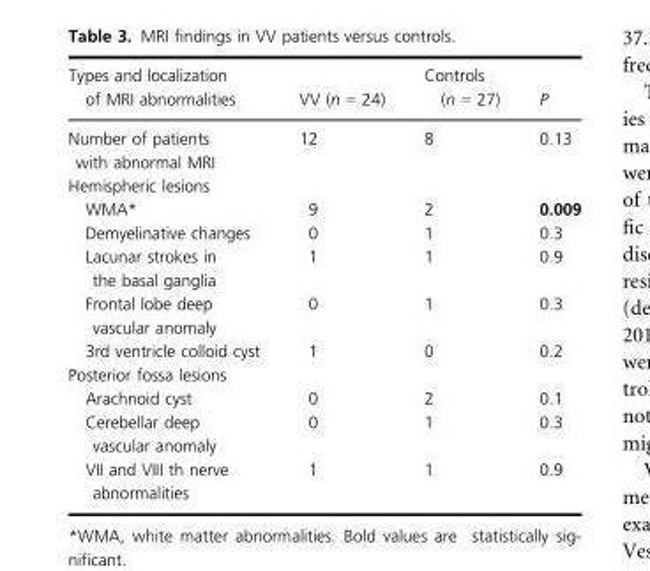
<table><thead><tr><td>Types and localization of MRI abnormalities</td><td>VV (n = 24)</td><td>Controls (n = 27)</td><td>P</td></tr></thead><tbody><tr><td>Number of patients with abnormal MRI</td><td>12</td><td>8</td><td>0.13</td></tr><tr><td colspan="4">Hemispheric lesions</td></tr><tr><td>WMA*</td><td>9</td><td>2</td><td>0.009</td></tr><tr><td>Demyelinative changes</td><td>0</td><td>1</td><td>0.3</td></tr><tr><td>Lacunar strokes in the basal ganglia</td><td>1</td><td>1</td><td>0.9</td></tr><tr><td>Frontal lobe deep vascular anomaly</td><td>0</td><td>1</td><td>0.3</td></tr><tr><td>3rd ventricle colloid cyst</td><td>1</td><td>0</td><td>0.2</td></tr><tr><td colspan="4">Posterior fossa lesions</td></tr><tr><td>Arachnoid cyst</td><td>0</td><td>2</td><td>0.1</td></tr><tr><td>Cerebellar deep vascular anomaly</td><td>0</td><td>1</td><td>0.3</td></tr><tr><td>VII and VIII th nerve abnormalities</td><td>1</td><td>1</td><td>0.9</td></tr></tbody></table>